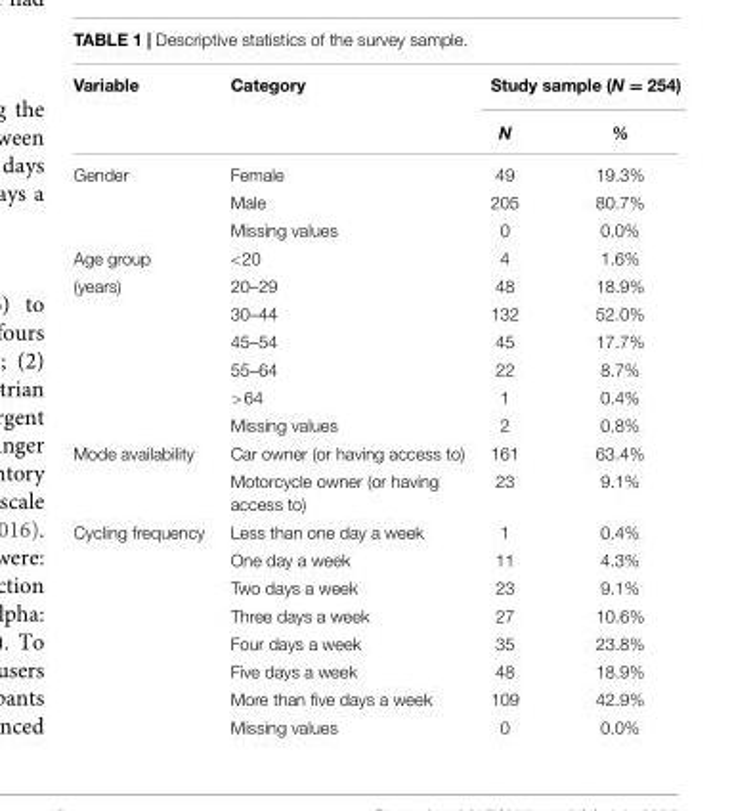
<table><thead><tr><td rowspan="2">Variable</td><td rowspan="2">Category</td><td colspan="2">Study sample (N = 254)</td></tr><tr><td>N</td><td>%</td></tr></thead><tbody><tr><td rowspan="3">Gender</td><td>Female</td><td>49</td><td>19.3%</td></tr><tr><td>Male</td><td>205</td><td>80.7%</td></tr><tr><td>Missing values</td><td>0</td><td>0.0%</td></tr><tr><td>Age group</td><td>&lt;20</td><td>4</td><td>1.6%</td></tr><tr><td rowspan="6">(years)</td><td>20–29</td><td>48</td><td>18.9%</td></tr><tr><td>30–44</td><td>132</td><td>52.0%</td></tr><tr><td>45–54</td><td>45</td><td>17.7%</td></tr><tr><td>55–64</td><td>22</td><td>8.7%</td></tr><tr><td>&gt;64</td><td>1</td><td>0.4%</td></tr><tr><td>Missing values</td><td>2</td><td>0.8%</td></tr><tr><td rowspan="2">Mode availability</td><td>Car owner (or having access to)</td><td>161</td><td>63.4%</td></tr><tr><td>Motorcycle owner (or having access to)</td><td>23</td><td>9.1%</td></tr><tr><td rowspan="8">Cycling frequency</td><td>Less than one day a week</td><td>1</td><td>0.4%</td></tr><tr><td>One day a week</td><td>11</td><td>4.3%</td></tr><tr><td>Two days a week</td><td>23</td><td>9.1%</td></tr><tr><td>Three days a week</td><td>27</td><td>10.6%</td></tr><tr><td>Four days a week</td><td>35</td><td>23.8%</td></tr><tr><td>Five days a week</td><td>48</td><td>18.9%</td></tr><tr><td>More than five days a week</td><td>109</td><td>42.9%</td></tr><tr><td>Missing values</td><td>0</td><td>0.0%</td></tr></tbody></table>